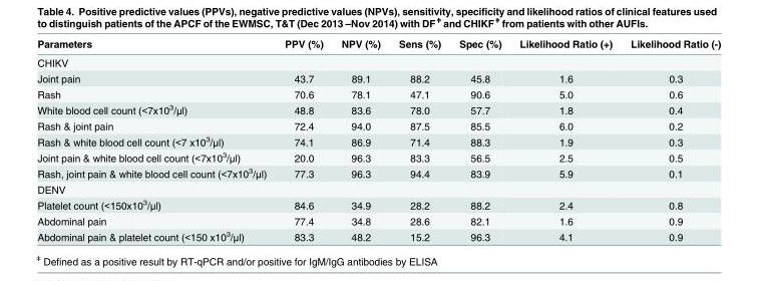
<table><thead><tr><td>Parameters</td><td>PPV (%)</td><td>NPV (%)</td><td>Sens (%)</td><td>Spec (%)</td><td>Likelihood Ratio (+)</td><td>Likelihood Ratio (-)</td></tr></thead><tbody><tr><td colspan="7">CHIKV</td></tr><tr><td>Joint pain</td><td>43.7</td><td>89.1</td><td>88.2</td><td>45.8</td><td>1.6</td><td>0.3</td></tr><tr><td>Rash</td><td>70.6</td><td>78.1</td><td>47.1</td><td>90.6</td><td>5.0</td><td>0.6</td></tr><tr><td>White blood cell count (&lt;7x10<sup>3</sup>/μl)</td><td>48.8</td><td>83.6</td><td>78.0</td><td>57.7</td><td>1.8</td><td>0.4</td></tr><tr><td>Rash &amp; joint pain</td><td>72.4</td><td>94.0</td><td>87.5</td><td>85.5</td><td>6.0</td><td>0.2</td></tr><tr><td>Rash &amp; white blood cell count (&lt;7 x10<sup>3</sup>/μl)</td><td>74.1</td><td>86.9</td><td>71.4</td><td>88.3</td><td>1.9</td><td>0.3</td></tr><tr><td>Joint pain &amp; white blood cell count (&lt;7x10<sup>3</sup>/μl)</td><td>20.0</td><td>96.3</td><td>83.3</td><td>56.5</td><td>2.5</td><td>0.5</td></tr><tr><td>Rash, joint pain &amp; white blood cell count (&lt;7x10<sup>3</sup>/μl)</td><td>77.3</td><td>96.3</td><td>94.4</td><td>83.9</td><td>5.9</td><td>0.1</td></tr><tr><td colspan="7">DENV</td></tr><tr><td>Platelet count (&lt;150x10<sup>3</sup>/μl)</td><td>84.6</td><td>34.9</td><td>28.2</td><td>88.2</td><td>2.4</td><td>0.8</td></tr><tr><td>Abdominal pain</td><td>77.4</td><td>34.8</td><td>28.6</td><td>82.1</td><td>1.6</td><td>0.9</td></tr><tr><td>Abdominal pain &amp; platelet count (&lt;150 x10<sup>3</sup>/μl)</td><td>83.3</td><td>48.2</td><td>15.2</td><td>96.3</td><td>4.1</td><td>0.9</td></tr></tbody></table>